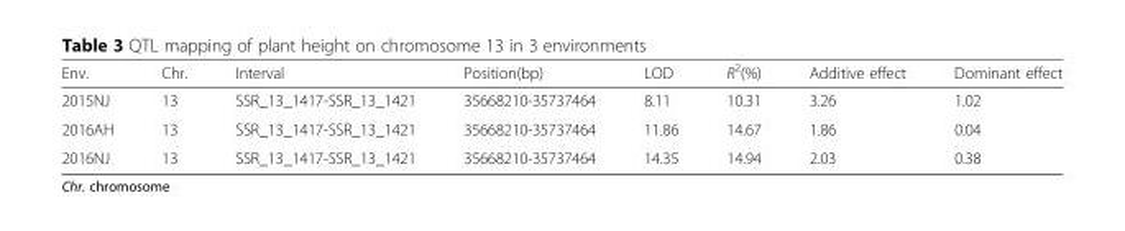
<table><thead><tr><td>Env.</td><td>Chr.</td><td>Interval</td><td>Position(bp)</td><td>LOD</td><td>R<sup>2</sup>(%)</td><td>Additive effect</td><td>Dominant effect</td></tr></thead><tbody><tr><td>2015NJ</td><td>13</td><td>SSR_13_1417-SSR_13_1421</td><td>35668210-35737464</td><td>8.11</td><td>10.31</td><td>3.26</td><td>1.02</td></tr><tr><td>2016AH</td><td>13</td><td>SSR_13_1417-SSR_13_1421</td><td>35668210-35737464</td><td>11.86</td><td>14.67</td><td>1.86</td><td>0.04</td></tr><tr><td>2016NJ</td><td>13</td><td>SSR_13_1417-SSR_13_1421</td><td>35668210-35737464</td><td>14.35</td><td>14.94</td><td>2.03</td><td>0.38</td></tr></tbody></table>